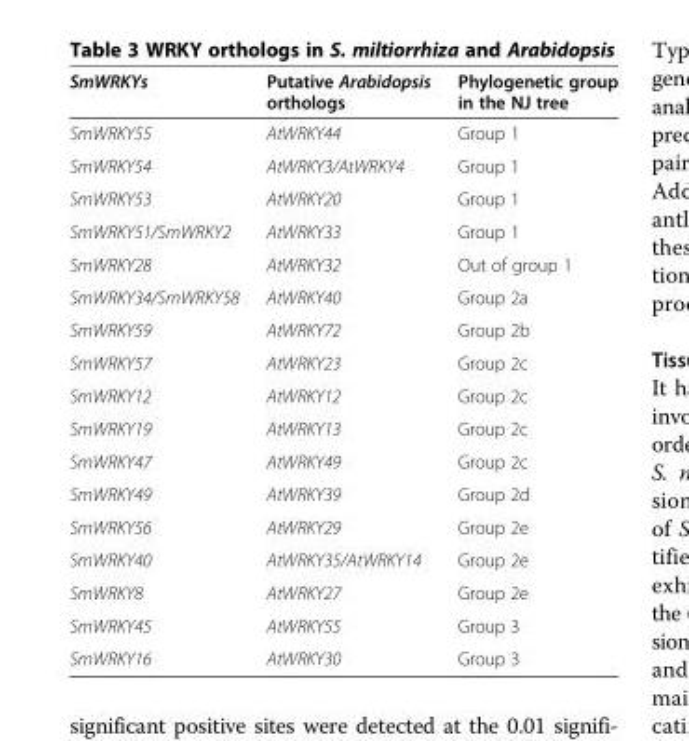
<table><thead><tr><td>SmWRKYs</td><td>Putative Arabidopsis orthologs</td><td>Phylogenetic group in the NJ tree</td></tr></thead><tbody><tr><td>SmWRKY55</td><td>AtWRKY44</td><td>Group 1</td></tr><tr><td>SmWRKY54</td><td>AtWRKY3/AtWRKY4</td><td>Group 1</td></tr><tr><td>SmWRKY53</td><td>AtWRKY20</td><td>Group 1</td></tr><tr><td>SmWRKY51/SmWRKY2</td><td>AtWRKY33</td><td>Group 1</td></tr><tr><td>SmWRKY28</td><td>AtWRKY32</td><td>Out of group 1</td></tr><tr><td>SmWRKY34/SmWRKY58</td><td>AtWRKY40</td><td>Group 2a</td></tr><tr><td>SmWRKY59</td><td>AtWRKY72</td><td>Group 2b</td></tr><tr><td>SmWRKY57</td><td>AtWRKY23</td><td>Group 2c</td></tr><tr><td>SmWRKY12</td><td>AtWRKY12</td><td>Group 2c</td></tr><tr><td>SmWRKY19</td><td>AtWRKY13</td><td>Group 2c</td></tr><tr><td>SmWRKY47</td><td>AtWRKY49</td><td>Group 2c</td></tr><tr><td>SmWRKY49</td><td>AtWRKY39</td><td>Group 2d</td></tr><tr><td>SmWRKY56</td><td>AtWRKY29</td><td>Group 2e</td></tr><tr><td>SmWRKY40</td><td>AtWRKY35/AtWRKY14</td><td>Group 2e</td></tr><tr><td>SmWRKY8</td><td>AtWRKY27</td><td>Group 2e</td></tr><tr><td>SmWRKY45</td><td>AtWRKY55</td><td>Group 3</td></tr><tr><td>SmWRKY16</td><td>AtWRKY30</td><td>Group 3</td></tr></tbody></table>